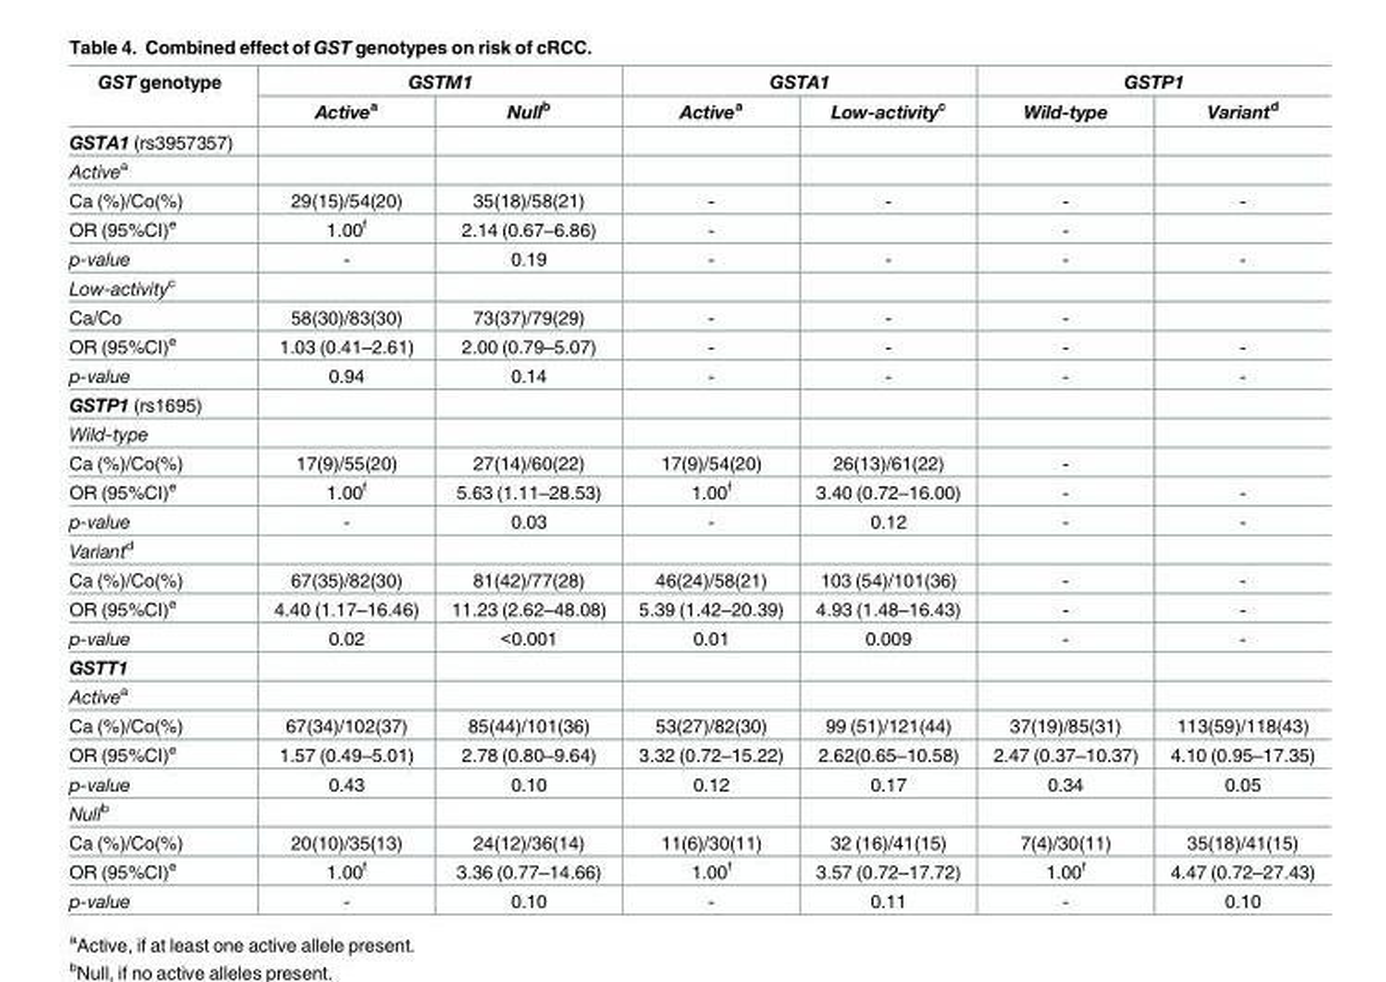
<table><thead><tr><td rowspan="2">GST genotype</td><td colspan="2">GSTM1</td><td colspan="2">GSTA1</td><td colspan="2">GSTP1</td></tr><tr><td>Activea</td><td>Nullb</td><td>Activea</td><td>Low-activityc</td><td>Wild-type</td><td>Variantd</td></tr></thead><tbody><tr><td colspan="7">GSTA1 (rs3957357)</td></tr><tr><td colspan="7">Activea</td></tr><tr><td>Ca (%)/Co(%)</td><td>29(15)/54(20)</td><td>35(18)/58(21)</td><td>-</td><td>-</td><td>-</td><td>-</td></tr><tr><td>OR (95%CI)e</td><td>1.00f</td><td>2.14 (0.67–6.86)</td><td>-</td><td></td><td>-</td><td></td></tr><tr><td>p-value</td><td>-</td><td>0.19</td><td>-</td><td>-</td><td>-</td><td>-</td></tr><tr><td colspan="7">Low-activityc</td></tr><tr><td>Ca/Co</td><td>58(30)/83(30)</td><td>73(37)/79(29)</td><td>-</td><td>-</td><td>-</td><td></td></tr><tr><td>OR (95%CI)e</td><td>1.03 (0.41–2.61)</td><td>2.00 (0.79–5.07)</td><td>-</td><td>-</td><td>-</td><td>-</td></tr><tr><td>p-value</td><td>0.94</td><td>0.14</td><td>-</td><td>-</td><td>-</td><td>-</td></tr><tr><td colspan="7">GSTP1 (rs1695)</td></tr><tr><td colspan="7">Wild-type</td></tr><tr><td>Ca (%)/Co(%)</td><td>17(9)/55(20)</td><td>27(14)/60(22)</td><td>17(9)/54(20)</td><td>26(13)/61(22)</td><td>-</td><td></td></tr><tr><td>OR (95%CI)e</td><td>1.00f</td><td>5.63 (1.11–28.53)</td><td>1.00f</td><td>3.40 (0.72–16.00)</td><td>-</td><td>-</td></tr><tr><td>p-value</td><td>-</td><td>0.03</td><td>-</td><td>0.12</td><td>-</td><td>-</td></tr><tr><td colspan="7">Variantd</td></tr><tr><td>Ca (%)/Co(%)</td><td>67(35)/82(30)</td><td>81(42)/77(28)</td><td>46(24)/58(21)</td><td>103 (54)/101(36)</td><td>-</td><td>-</td></tr><tr><td>OR (95%CI)e</td><td>4.40 (1.17–16.46)</td><td>11.23 (2.62–48.08)</td><td>5.39 (1.42–20.39)</td><td>4.93 (1.48–16.43)</td><td>-</td><td>-</td></tr><tr><td>p-value</td><td>0.02</td><td>&lt;0.001</td><td>0.01</td><td>0.009</td><td>-</td><td>-</td></tr><tr><td colspan="7">GSTT1</td></tr><tr><td colspan="7">Activea</td></tr><tr><td>Ca (%)/Co(%)</td><td>67(34)/102(37)</td><td>85(44)/101(36)</td><td>53(27)/82(30)</td><td>99 (51)/121(44)</td><td>37(19)/85(31)</td><td>113(59)/118(43)</td></tr><tr><td>OR (95%CI)e</td><td>1.57 (0.49–5.01)</td><td>2.78 (0.80–9.64)</td><td>3.32 (0.72–15.22)</td><td>2.62(0.65–10.58)</td><td>2.47 (0.37–10.37)</td><td>4.10 (0.95–17.35)</td></tr><tr><td>p-value</td><td>0.43</td><td>0.10</td><td>0.12</td><td>0.17</td><td>0.34</td><td>0.05</td></tr><tr><td colspan="7">Nullb</td></tr><tr><td>Ca (%)/Co(%)</td><td>20(10)/35(13)</td><td>24(12)/36(14)</td><td>11(6)/30(11)</td><td>32 (16)/41(15)</td><td>7(4)/30(11)</td><td>35(18)/41(15)</td></tr><tr><td>OR (95%CI)e</td><td>1.00f</td><td>3.36 (0.77–14.66)</td><td>1.00f</td><td>3.57 (0.72–17.72)</td><td>1.00f</td><td>4.47 (0.72–27.43)</td></tr><tr><td>p-value</td><td>-</td><td>0.10</td><td>-</td><td>0.11</td><td>-</td><td>0.10</td></tr></tbody></table>